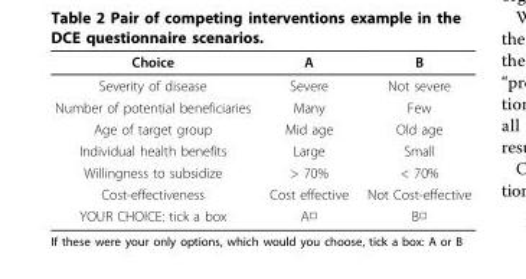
<table><thead><tr><td>Choice</td><td>A</td><td>B</td></tr></thead><tbody><tr><td>Severity of disease</td><td>Severe</td><td>Not severe</td></tr><tr><td>Number of potential beneficiaries</td><td>Many</td><td>Few</td></tr><tr><td>Age of target group</td><td>Mid age</td><td>Old age</td></tr><tr><td>Individual health benefits</td><td>Large</td><td>Small</td></tr><tr><td>Willingness to subsidize</td><td>&gt; 70%</td><td>&lt; 70%</td></tr><tr><td>Cost-effectiveness</td><td>Cost effective</td><td>Not Cost-effective</td></tr><tr><td>YOUR CHOICE: tick a box</td><td>A□</td><td>B□</td></tr></tbody></table>